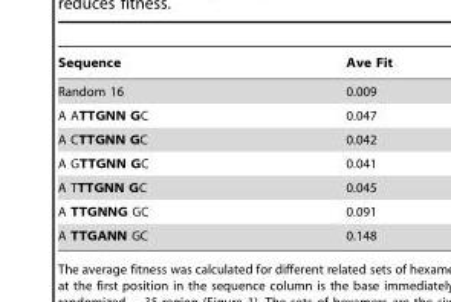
<table><thead><tr><td>Sequence</td><td>Ave Fit</td></tr></thead><tbody><tr><td>Random 16</td><td>0.009</td></tr><tr><td>A ATTGNN GC</td><td>0.047</td></tr><tr><td>A CTTGNN GC</td><td>0.042</td></tr><tr><td>A GTTGNN GC</td><td>0.041</td></tr><tr><td>A TTTGNN GC</td><td>0.045</td></tr><tr><td>A TTGNNG GC</td><td>0.091</td></tr><tr><td>A TTGANN GC</td><td>0.148</td></tr></tbody></table>